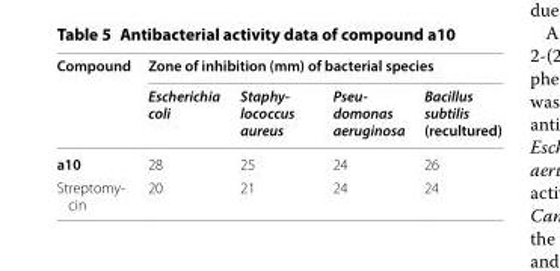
<table><thead><tr><td rowspan="2">Compound</td><td colspan="4">Zone of inhibition (mm) of bacterial species</td></tr><tr><td>Escherichia coli</td><td>Staphy- lococcus aureus</td><td>Pseu- domonas aeruginosa</td><td>Bacillus subtilis (recultured)</td></tr></thead><tbody><tr><td>a10</td><td>28</td><td>25</td><td>24</td><td>26</td></tr><tr><td>Streptomy- cin</td><td>20</td><td>21</td><td>24</td><td>24</td></tr></tbody></table>